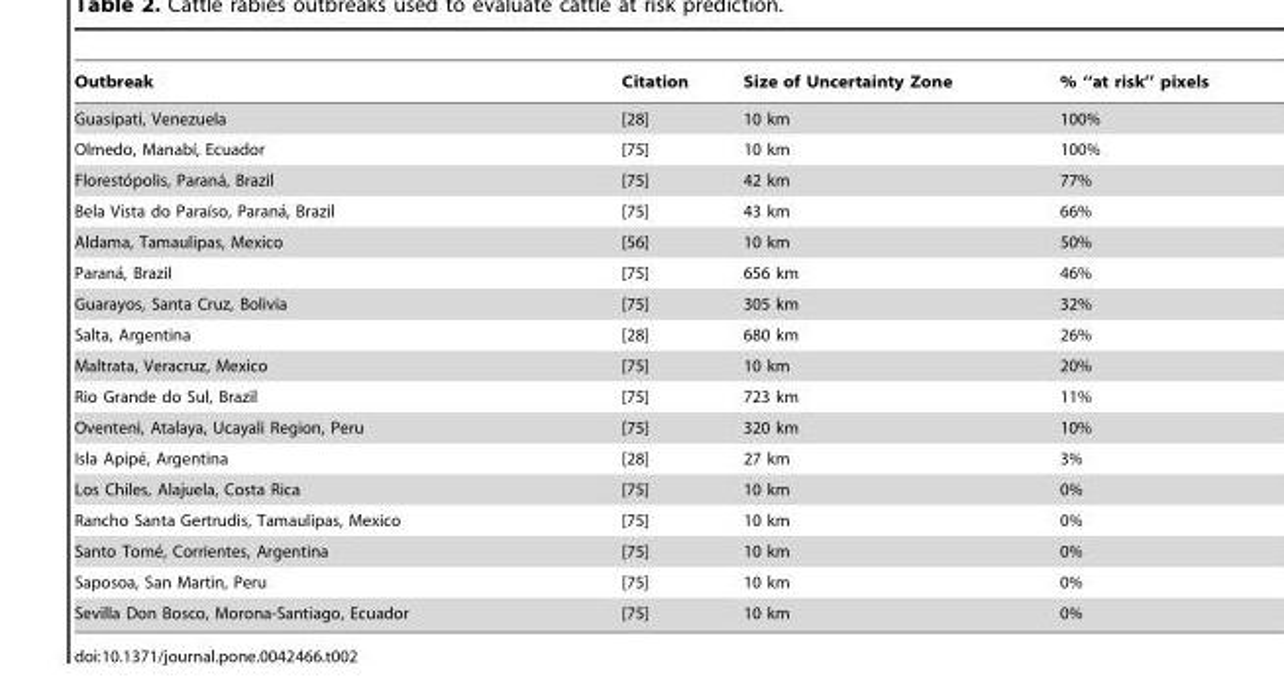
<table><thead><tr><td>Outbreak</td><td>Citation</td><td>Size of Uncertainty Zone</td><td>% ‘‘at risk’’ pixels</td></tr></thead><tbody><tr><td>Guasipati, Venezuela</td><td>[28]</td><td>10 km</td><td>100%</td></tr><tr><td>Olmedo, Manabı´, Ecuador</td><td>[75]</td><td>10 km</td><td>100%</td></tr><tr><td>Floresto´polis, Parana´, Brazil</td><td>[75]</td><td>42 km</td><td>77%</td></tr><tr><td>Bela Vista do Paraı´so, Parana´, Brazil</td><td>[75]</td><td>43 km</td><td>66%</td></tr><tr><td>Aldama, Tamaulipas, Mexico</td><td>[56]</td><td>10 km</td><td>50%</td></tr><tr><td>Parana´, Brazil</td><td>[75]</td><td>656 km</td><td>46%</td></tr><tr><td>Guarayos, Santa Cruz, Bolivia</td><td>[75]</td><td>305 km</td><td>32%</td></tr><tr><td>Salta, Argentina</td><td>[28]</td><td>680 km</td><td>26%</td></tr><tr><td>Maltrata, Veracruz, Mexico</td><td>[75]</td><td>10 km</td><td>20%</td></tr><tr><td>Rio Grande do Sul, Brazil</td><td>[75]</td><td>723 km</td><td>11%</td></tr><tr><td>Oventeni, Atalaya, Ucayali Region, Peru</td><td>[75]</td><td>320 km</td><td>10%</td></tr><tr><td>Isla Apipe´, Argentina</td><td>[28]</td><td>27 km</td><td>3%</td></tr><tr><td>Los Chiles, Alajuela, Costa Rica</td><td>[75]</td><td>10 km</td><td>0%</td></tr><tr><td>Rancho Santa Gertrudis, Tamaulipas, Mexico</td><td>[75]</td><td>10 km</td><td>0%</td></tr><tr><td>Santo Tome´, Corrientes, Argentina</td><td>[75]</td><td>10 km</td><td>0%</td></tr><tr><td>Saposoa, San Martin, Peru</td><td>[75]</td><td>10 km</td><td>0%</td></tr><tr><td>Sevilla Don Bosco, Morona-Santiago, Ecuador</td><td>[75]</td><td>10 km</td><td>0%</td></tr></tbody></table>